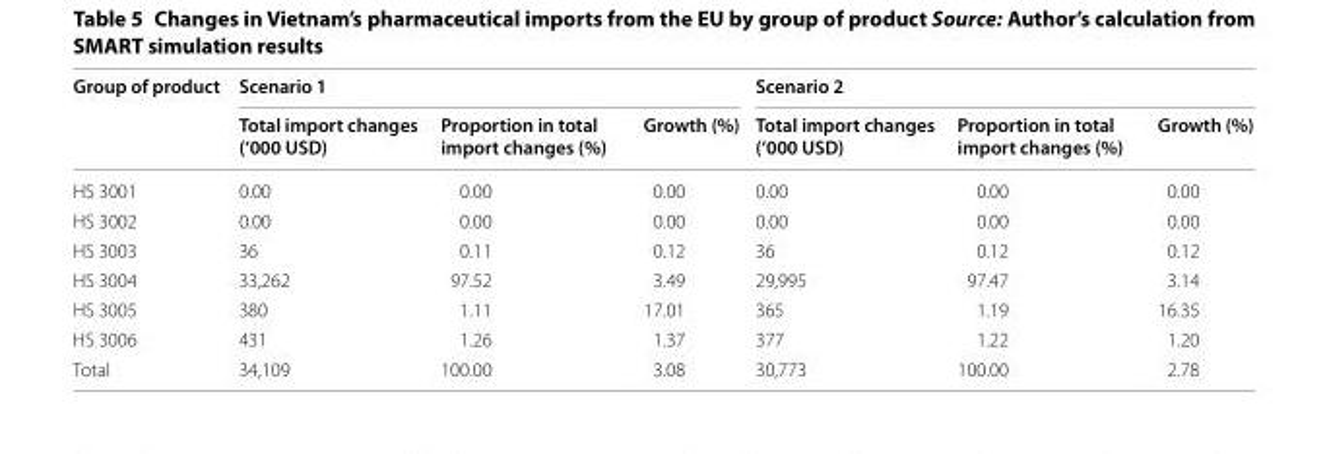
<table><thead><tr><td rowspan="2">Group of product</td><td colspan="3">Scenario 1</td><td colspan="3">Scenario 2</td></tr><tr><td>Total import changes (‘000 USD)</td><td>Proportion in total import changes (%)</td><td>Growth (%)</td><td>Total import changes (‘000 USD)</td><td>Proportion in total import changes (%)</td><td>Growth (%)</td></tr></thead><tbody><tr><td>HS 3001</td><td>0.00</td><td>0.00</td><td>0.00</td><td>0.00</td><td>0.00</td><td>0.00</td></tr><tr><td>HS 3002</td><td>0.00</td><td>0.00</td><td>0.00</td><td>0.00</td><td>0.00</td><td>0.00</td></tr><tr><td>HS 3003</td><td>36</td><td>0.11</td><td>0.12</td><td>36</td><td>0.12</td><td>0.12</td></tr><tr><td>HS 3004</td><td>33,262</td><td>97.52</td><td>3.49</td><td>29,995</td><td>97.47</td><td>3.14</td></tr><tr><td>HS 3005</td><td>380</td><td>1.11</td><td>17.01</td><td>365</td><td>1.19</td><td>16.35</td></tr><tr><td>HS 3006</td><td>431</td><td>1.26</td><td>1.37</td><td>377</td><td>1.22</td><td>1.20</td></tr><tr><td>Total</td><td>34,109</td><td>100.00</td><td>3.08</td><td>30,773</td><td>100.00</td><td>2.78</td></tr></tbody></table>